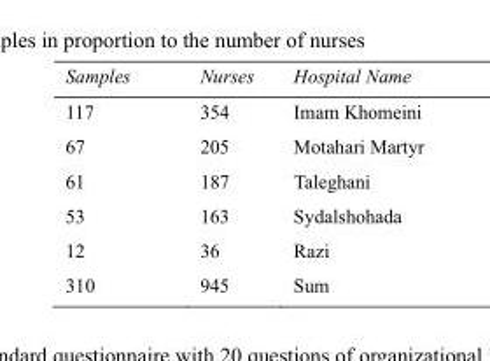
<table><thead><tr><td>Samples</td><td>Nurses</td><td>Hospital Name</td></tr></thead><tbody><tr><td>117</td><td>354</td><td>Imam Khomeini</td></tr><tr><td>67</td><td>205</td><td>Motahari Martyr</td></tr><tr><td>61</td><td>187</td><td>Taleghani</td></tr><tr><td>53</td><td>163</td><td>Sydalshohada</td></tr><tr><td>12</td><td>36</td><td>Razi</td></tr><tr><td>310</td><td>945</td><td>Sum</td></tr></tbody></table>